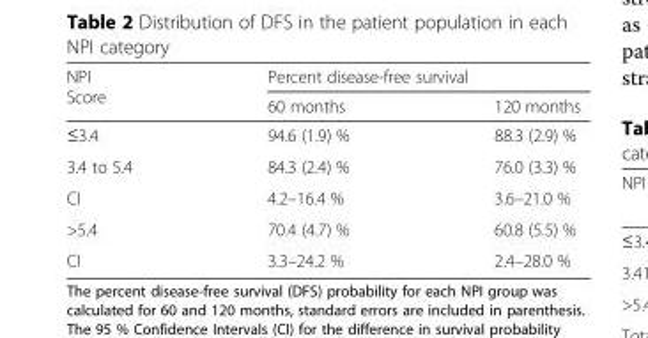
<table><thead><tr><td rowspan="2">NPI Score</td><td colspan="2">Percent disease-free survival</td></tr><tr><td>60 months</td><td>120 months</td></tr></thead><tbody><tr><td>≤3.4</td><td>94.6 (1.9) %</td><td>88.3 (2.9) %</td></tr><tr><td>3.4 to 5.4</td><td>84.3 (2.4) %</td><td>76.0 (3.3) %</td></tr><tr><td>CI</td><td>4.2–16.4 %</td><td>3.6–21.0 %</td></tr><tr><td>&gt;5.4</td><td>70.4 (4.7) %</td><td>60.8 (5.5) %</td></tr><tr><td>CI</td><td>3.3–24.2 %</td><td>2.4–28.0 %</td></tr></tbody></table>